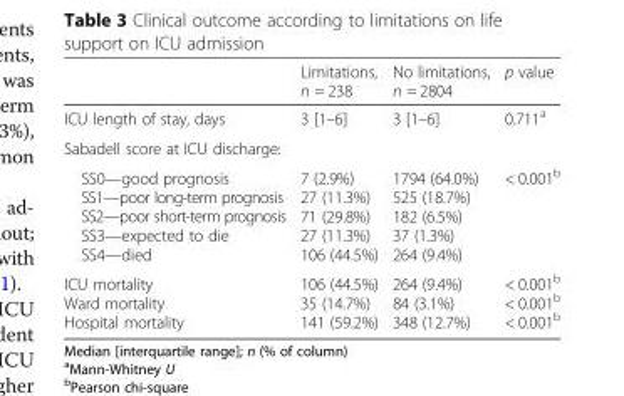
<table><thead><tr><td></td><td>Limitations, n = 238</td><td>No limitations, n = 2804</td><td>p value</td></tr></thead><tbody><tr><td>ICU length of stay, days</td><td>3 [1–6]</td><td>3 [1–6]</td><td>0.711<sup>a</sup></td></tr><tr><td colspan="4">Sabadell score at ICU discharge:</td></tr><tr><td>SS0—good prognosis SS1—poor long-term prognosis SS2—poor short-term prognosis SS3—expected to die SS4—died</td><td>7 (2.9%) 27 (11.3%) 71 (29.8%) 27 (11.3%) 106 (44.5%)</td><td>1794 (64.0%) 525 (18.7%) 182 (6.5%) 37 (1.3%) 264 (9.4%)</td><td>&lt; 0.001<sup>b</sup></td></tr><tr><td>ICU mortality Ward mortality Hospital mortality</td><td>106 (44.5%) 35 (14.7%) 141 (59.2%)</td><td>264 (9.4%) 84 (3.1%) 348 (12.7%)</td><td>&lt; 0.001<sup>b</sup> &lt; 0.001<sup>b</sup> &lt; 0.001<sup>b</sup></td></tr></tbody></table>